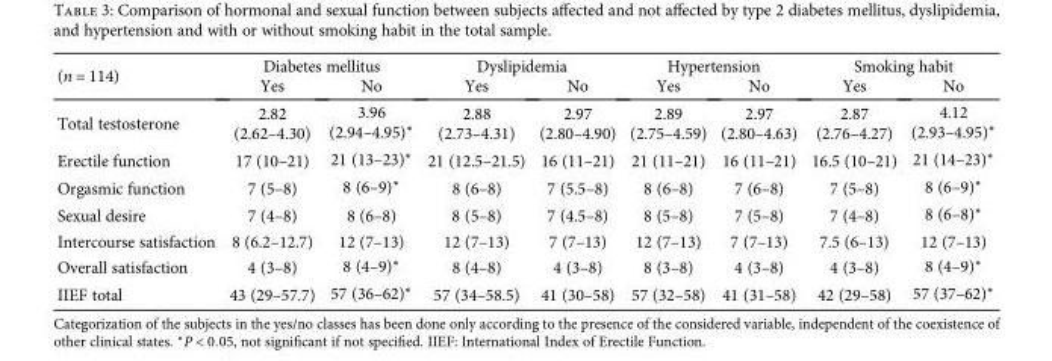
<table><thead><tr><td rowspan="2">(n = 114)</td><td colspan="2">Diabetes mellitus</td><td colspan="2">Dyslipidemia</td><td colspan="2">Hypertension</td><td colspan="2">Smoking habit</td></tr><tr><td>Yes</td><td>No</td><td>Yes</td><td>No</td><td>Yes</td><td>No</td><td>Yes</td><td>No</td></tr></thead><tbody><tr><td>Total testosterone</td><td>2.82 (2.62–4.30)</td><td>3.96 (2.94–4.95)∗</td><td>2.88 (2.73–4.31)</td><td>2.97 (2.80–4.90)</td><td>2.89 (2.75–4.59)</td><td>2.97 (2.80–4.63)</td><td>2.87 (2.76–4.27)</td><td>4.12 (2.93–4.95)∗</td></tr><tr><td>Erectile function</td><td>17 (10–21)</td><td>21 (13–23)∗</td><td>21 (12.5–21.5)</td><td>16 (11–21)</td><td>21 (11–21)</td><td>16 (11–21)</td><td>16.5 (10–21)</td><td>21 (14–23)∗</td></tr><tr><td>Orgasmic function</td><td>7 (5–8)</td><td>8 (6–9)∗</td><td>8 (6–8)</td><td>7 (5.5–8)</td><td>8 (6–8)</td><td>7 (6–8)</td><td>7 (5–8)</td><td>8 (6–9)∗</td></tr><tr><td>Sexual desire</td><td>7 (4–8)</td><td>8 (6–8)</td><td>8 (5–8)</td><td>7 (4.5–8)</td><td>8 (5–8)</td><td>7 (5–8)</td><td>7 (4–8)</td><td>8 (6–8)∗</td></tr><tr><td>Intercourse satisfaction</td><td>8 (6.2–12.7)</td><td>12 (7–13)</td><td>12 (7–13)</td><td>7 (7–13)</td><td>12 (7–13)</td><td>7 (7–13)</td><td>7.5 (6–13)</td><td>12 (7–13)</td></tr><tr><td>Overall satisfaction</td><td>4 (3–8)</td><td>8 (4–9)∗</td><td>8 (4–8)</td><td>4 (3–8)</td><td>8 (3–8)</td><td>4 (3–8)</td><td>4 (3–8)</td><td>8 (4–9)∗</td></tr><tr><td>IIEF total</td><td>43 (29–57.7)</td><td>57 (36–62)∗</td><td>57 (34–58.5)</td><td>41 (30–58)</td><td>57 (32–58)</td><td>41 (31–58)</td><td>42 (29–58)</td><td>57 (37–62)∗</td></tr></tbody></table>